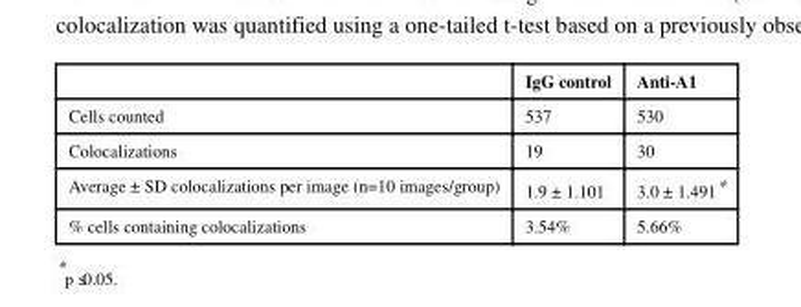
<table><thead><tr><td></td><td>IgG control</td><td>Anti-A1</td></tr></thead><tbody><tr><td>Cells counted</td><td>537</td><td>530</td></tr><tr><td>Colocalizations</td><td>19</td><td>30</td></tr><tr><td>Average ± SD colocalizations per image (n=10 images/group)</td><td>1.9 ± 1.101</td><td>3.0 ± 1.491*</td></tr><tr><td>% cells containing colocalizations</td><td>3.54%</td><td>5.66%</td></tr></tbody></table>